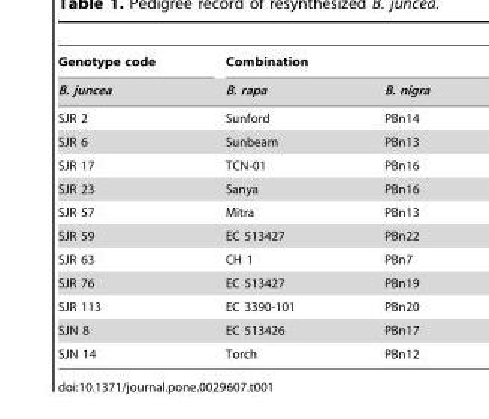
<table><thead><tr><td rowspan="2">Genotype code B. juncea</td><td colspan="2">Combination</td></tr><tr><td>B. rapa</td><td>B. nigra</td></tr></thead><tbody><tr><td>SJR 2</td><td>Sunford</td><td>PBn14</td></tr><tr><td>SJR 6</td><td>Sunbeam</td><td>PBn13</td></tr><tr><td>SJR 17</td><td>TCN-01</td><td>PBn16</td></tr><tr><td>SJR 23</td><td>Sanya</td><td>PBn16</td></tr><tr><td>SJR 57</td><td>Mitra</td><td>PBn13</td></tr><tr><td>SJR 59</td><td>EC 513427</td><td>PBn22</td></tr><tr><td>SJR 63</td><td>CH 1</td><td>PBn7</td></tr><tr><td>SJR 76</td><td>EC 513427</td><td>PBn19</td></tr><tr><td>SJR 113</td><td>EC 3390-101</td><td>PBn20</td></tr><tr><td>SJN 8</td><td>EC 513426</td><td>PBn17</td></tr><tr><td>SJN 14</td><td>Torch</td><td>PBn12</td></tr></tbody></table>